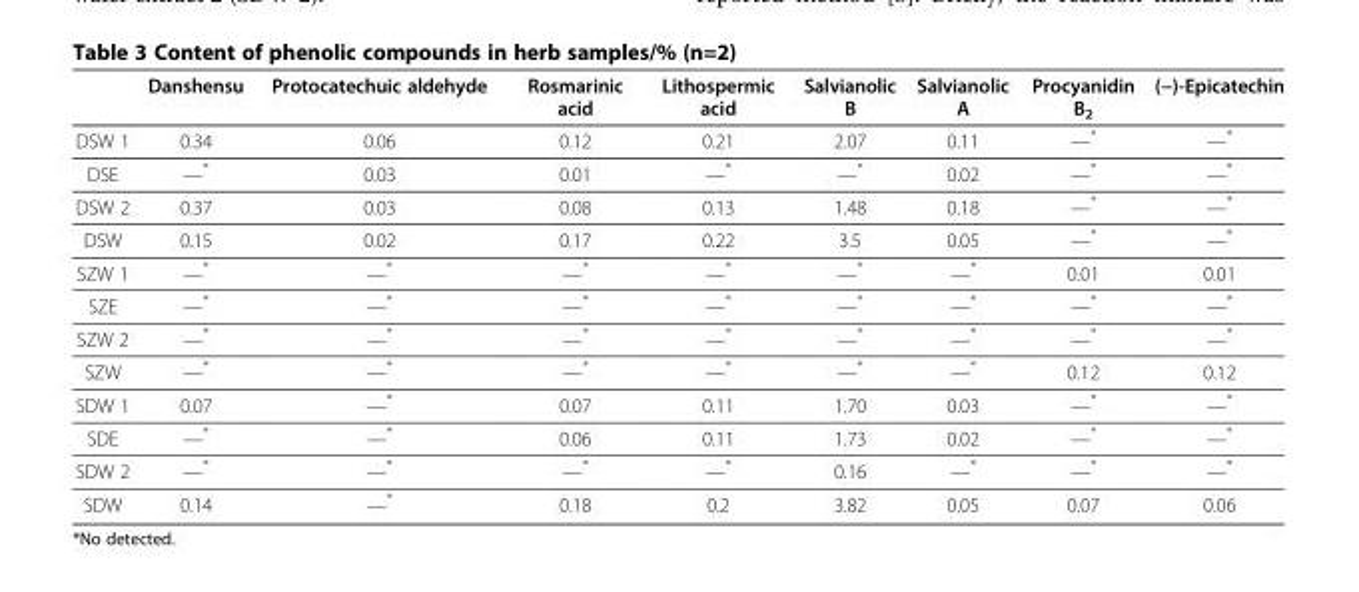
<table><thead><tr><td></td><td>Danshensu</td><td>Protocatechuic aldehyde</td><td>Rosmarinic acid</td><td>Lithospermic acid</td><td>Salvianolic B</td><td>Salvianolic A</td><td>Procyanidin B<sub>2</sub></td><td>(−)-Epicatechin</td></tr></thead><tbody><tr><td>DSW 1</td><td>0.34</td><td>0.06</td><td>0.12</td><td>0.21</td><td>2.07</td><td>0.11</td><td>—*</td><td>—*</td></tr><tr><td>DSE</td><td>—*</td><td>0.03</td><td>0.01</td><td>—*</td><td>—*</td><td>0.02</td><td>—*</td><td>—*</td></tr><tr><td>DSW 2</td><td>0.37</td><td>0.03</td><td>0.08</td><td>0.13</td><td>1.48</td><td>0.18</td><td>—*</td><td>—*</td></tr><tr><td>DSW</td><td>0.15</td><td>0.02</td><td>0.17</td><td>0.22</td><td>3.5</td><td>0.05</td><td>—*</td><td>—*</td></tr><tr><td>SZW 1</td><td>—*</td><td>—*</td><td>—*</td><td>—*</td><td>—*</td><td>—*</td><td>0.01</td><td>0.01</td></tr><tr><td>SZE</td><td>—*</td><td>—*</td><td>—*</td><td>—*</td><td>—*</td><td>—*</td><td>—*</td><td>—*</td></tr><tr><td>SZW 2</td><td>—*</td><td>—*</td><td>—*</td><td>—*</td><td>—*</td><td>—*</td><td>—*</td><td>—*</td></tr><tr><td>SZW</td><td>—*</td><td>—*</td><td>—*</td><td>—*</td><td>—*</td><td>—*</td><td>0.12</td><td>0.12</td></tr><tr><td>SDW 1</td><td>0.07</td><td>—*</td><td>0.07</td><td>0.11</td><td>1.70</td><td>0.03</td><td>—*</td><td>—*</td></tr><tr><td>SDE</td><td>—*</td><td>—*</td><td>0.06</td><td>0.11</td><td>1.73</td><td>0.02</td><td>—*</td><td>—*</td></tr><tr><td>SDW 2</td><td>—*</td><td>—*</td><td>—*</td><td>—*</td><td>0.16</td><td>—*</td><td>—*</td><td>—*</td></tr><tr><td>SDW</td><td>0.14</td><td>—*</td><td>0.18</td><td>0.2</td><td>3.82</td><td>0.05</td><td>0.07</td><td>0.06</td></tr></tbody></table>